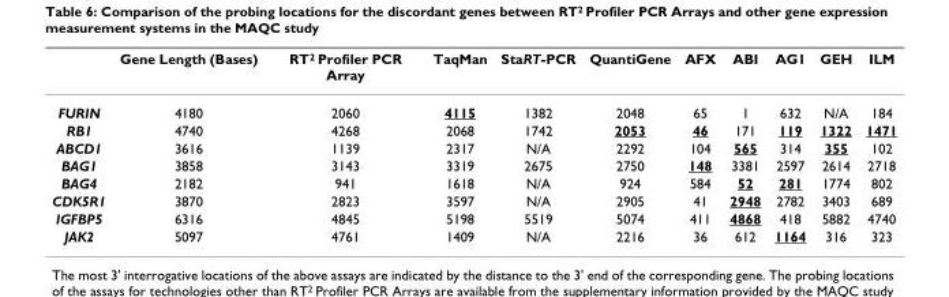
<table><thead><tr><td></td><td>Gene Length (Bases)</td><td>RT<sup>2</sup> Profiler PCR Array</td><td>TaqMan</td><td>StaRT-PCR</td><td>QuantiGene</td><td>AFX</td><td>ABI</td><td>AG1</td><td>GEH</td><td>ILM</td></tr></thead><tbody><tr><td>FURIN</td><td>4180</td><td>2060</td><td>4115</td><td>1382</td><td>2048</td><td>65</td><td>1</td><td>632</td><td>N/A</td><td>184</td></tr><tr><td>RB1</td><td>4740</td><td>4268</td><td>2068</td><td>1742</td><td>2053</td><td>46</td><td>171</td><td>119</td><td>1322</td><td>1471</td></tr><tr><td>ABCD1</td><td>3616</td><td>1139</td><td>2317</td><td>N/A</td><td>2292</td><td>104</td><td>565</td><td>314</td><td>355</td><td>102</td></tr><tr><td>BAG1</td><td>3858</td><td>3143</td><td>3319</td><td>2675</td><td>2750</td><td>148</td><td>3381</td><td>2597</td><td>2614</td><td>2718</td></tr><tr><td>BAG4</td><td>2182</td><td>941</td><td>1618</td><td>N/A</td><td>924</td><td>584</td><td>52</td><td>281</td><td>1774</td><td>802</td></tr><tr><td>CDK5R1</td><td>3870</td><td>2823</td><td>3597</td><td>N/A</td><td>2905</td><td>41</td><td>2948</td><td>2782</td><td>3403</td><td>689</td></tr><tr><td>IGFBP5</td><td>6316</td><td>4845</td><td>5198</td><td>5519</td><td>5074</td><td>411</td><td>4868</td><td>418</td><td>5882</td><td>4740</td></tr><tr><td>JAK2</td><td>5097</td><td>4761</td><td>1409</td><td>N/A</td><td>2216</td><td>36</td><td>612</td><td>1164</td><td>316</td><td>323</td></tr></tbody></table>